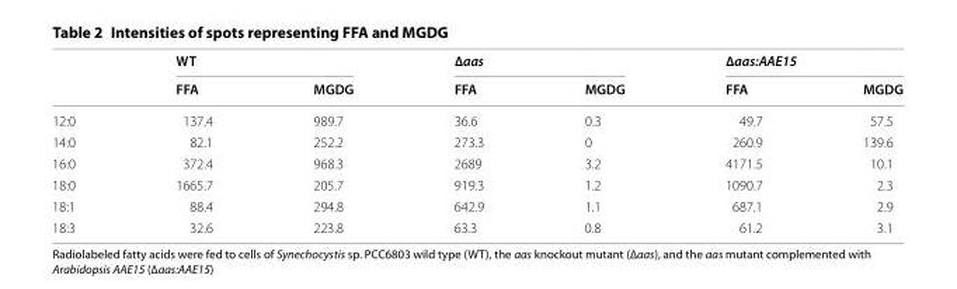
<table><thead><tr><td rowspan="2"></td><td colspan="2">WT</td><td colspan="2">∆aas</td><td colspan="2">∆aas:AAE15</td></tr><tr><td>FFA</td><td>MGDG</td><td>FFA</td><td>MGDG</td><td>FFA</td><td>MGDG</td></tr></thead><tbody><tr><td>12:0</td><td>137.4</td><td>989.7</td><td>36.6</td><td>0.3</td><td>49.7</td><td>57.5</td></tr><tr><td>14:0</td><td>82.1</td><td>252.2</td><td>273.3</td><td>0</td><td>260.9</td><td>139.6</td></tr><tr><td>16:0</td><td>372.4</td><td>968.3</td><td>2689</td><td>3.2</td><td>4171.5</td><td>10.1</td></tr><tr><td>18:0</td><td>1665.7</td><td>205.7</td><td>919.3</td><td>1.2</td><td>1090.7</td><td>2.3</td></tr><tr><td>18:1</td><td>88.4</td><td>294.8</td><td>642.9</td><td>1.1</td><td>687.1</td><td>2.9</td></tr><tr><td>18:3</td><td>32.6</td><td>223.8</td><td>63.3</td><td>0.8</td><td>61.2</td><td>3.1</td></tr></tbody></table>